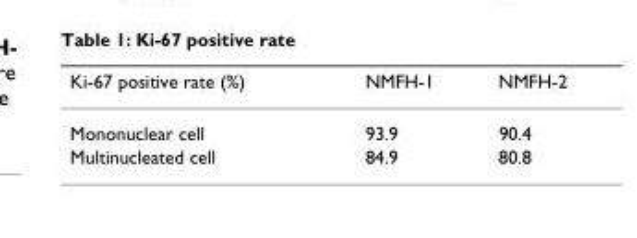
<table><thead><tr><td>Ki-67 positive rate (%)</td><td>NMFH-1</td><td>NMFH-2</td></tr></thead><tbody><tr><td>Mononuclear cell</td><td>93.9</td><td>90.4</td></tr><tr><td>Multinucleated cell</td><td>84.9</td><td>80.8</td></tr></tbody></table>